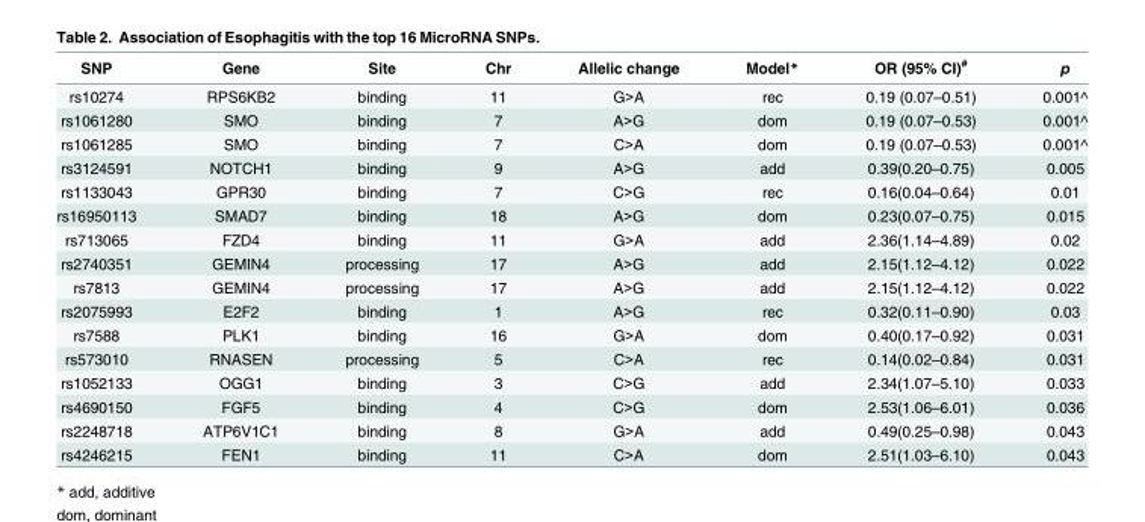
<table><thead><tr><td>SNP</td><td>Gene</td><td>Site</td><td>Chr</td><td>Allelic change</td><td>Model*</td><td>OR (95% CI)<sup>#</sup></td><td>p</td></tr></thead><tbody><tr><td>rs10274</td><td>RPS6KB2</td><td>binding</td><td>11</td><td>G&gt;A</td><td>rec</td><td>0.19 (0.07–0.51)</td><td>0.001^</td></tr><tr><td>rs1061280</td><td>SMO</td><td>binding</td><td>7</td><td>A&gt;G</td><td>dom</td><td>0.19 (0.07–0.53)</td><td>0.001^</td></tr><tr><td>rs1061285</td><td>SMO</td><td>binding</td><td>7</td><td>C&gt;A</td><td>dom</td><td>0.19 (0.07–0.53)</td><td>0.001^</td></tr><tr><td>rs3124591</td><td>NOTCH1</td><td>binding</td><td>9</td><td>A&gt;G</td><td>add</td><td>0.39(0.20–0.75)</td><td>0.005</td></tr><tr><td>rs1133043</td><td>GPR30</td><td>binding</td><td>7</td><td>C&gt;G</td><td>rec</td><td>0.16(0.04–0.64)</td><td>0.01</td></tr><tr><td>rs16950113</td><td>SMAD7</td><td>binding</td><td>18</td><td>A&gt;G</td><td>dom</td><td>0.23(0.07–0.75)</td><td>0.015</td></tr><tr><td>rs713065</td><td>FZD4</td><td>binding</td><td>11</td><td>G&gt;A</td><td>add</td><td>2.36(1.14–4.89)</td><td>0.02</td></tr><tr><td>rs2740351</td><td>GEMIN4</td><td>processing</td><td>17</td><td>A&gt;G</td><td>add</td><td>2.15(1.12–4.12)</td><td>0.022</td></tr><tr><td>rs7813</td><td>GEMIN4</td><td>processing</td><td>17</td><td>A&gt;G</td><td>add</td><td>2.15(1.12–4.12)</td><td>0.022</td></tr><tr><td>rs2075993</td><td>E2F2</td><td>binding</td><td>1</td><td>A&gt;G</td><td>rec</td><td>0.32(0.11–0.90)</td><td>0.03</td></tr><tr><td>rs7588</td><td>PLK1</td><td>binding</td><td>16</td><td>G&gt;A</td><td>dom</td><td>0.40(0.17–0.92)</td><td>0.031</td></tr><tr><td>rs573010</td><td>RNASEN</td><td>processing</td><td>5</td><td>C&gt;A</td><td>rec</td><td>0.14(0.02–0.84)</td><td>0.031</td></tr><tr><td>rs1052133</td><td>OGG1</td><td>binding</td><td>3</td><td>C&gt;G</td><td>add</td><td>2.34(1.07–5.10)</td><td>0.033</td></tr><tr><td>rs4690150</td><td>FGF5</td><td>binding</td><td>4</td><td>C&gt;G</td><td>dom</td><td>2.53(1.06–6.01)</td><td>0.036</td></tr><tr><td>rs2248718</td><td>ATP6V1C1</td><td>binding</td><td>8</td><td>G&gt;A</td><td>add</td><td>0.49(0.25–0.98)</td><td>0.043</td></tr><tr><td>rs4246215</td><td>FEN1</td><td>binding</td><td>11</td><td>C&gt;A</td><td>dom</td><td>2.51(1.03–6.10)</td><td>0.043</td></tr></tbody></table>